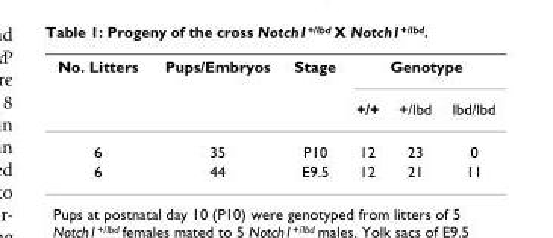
<table><thead><tr><td rowspan="2">No. Litters</td><td rowspan="2">Pups/Embryos</td><td rowspan="2">Stage</td><td colspan="3">Genotype</td></tr><tr><td>+/+</td><td>+/lbd</td><td>lbd/lbd</td></tr></thead><tbody><tr><td>6</td><td>35</td><td>P10</td><td>12</td><td>23</td><td>0</td></tr><tr><td>6</td><td>44</td><td>E9.5</td><td>12</td><td>21</td><td>11</td></tr></tbody></table>